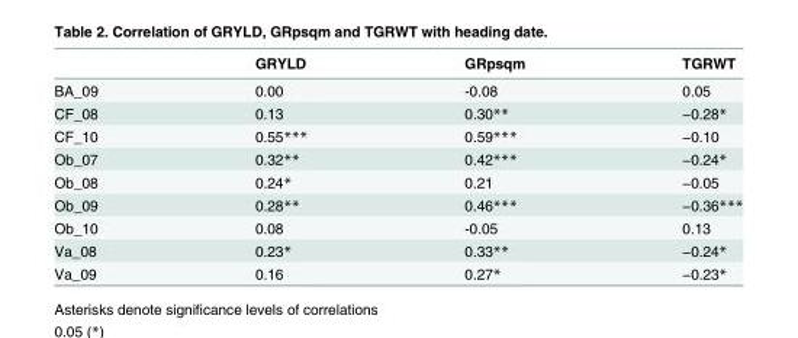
<table><thead><tr><td></td><td>GRYLD</td><td>GRpsqm</td><td>TGRWT</td></tr></thead><tbody><tr><td>BA_09</td><td>0.00</td><td>-0.08</td><td>0.05</td></tr><tr><td>CF_08</td><td>0.13</td><td>0.30**</td><td>−0.28*</td></tr><tr><td>CF_10</td><td>0.55***</td><td>0.59***</td><td>−0.10</td></tr><tr><td>Ob_07</td><td>0.32**</td><td>0.42***</td><td>−0.24*</td></tr><tr><td>Ob_08</td><td>0.24*</td><td>0.21</td><td>−0.05</td></tr><tr><td>Ob_09</td><td>0.28**</td><td>0.46***</td><td>−0.36***</td></tr><tr><td>Ob_10</td><td>0.08</td><td>-0.05</td><td>0.13</td></tr><tr><td>Va_08</td><td>0.23*</td><td>0.33**</td><td>−0.24*</td></tr><tr><td>Va_09</td><td>0.16</td><td>0.27*</td><td>−0.23*</td></tr></tbody></table>